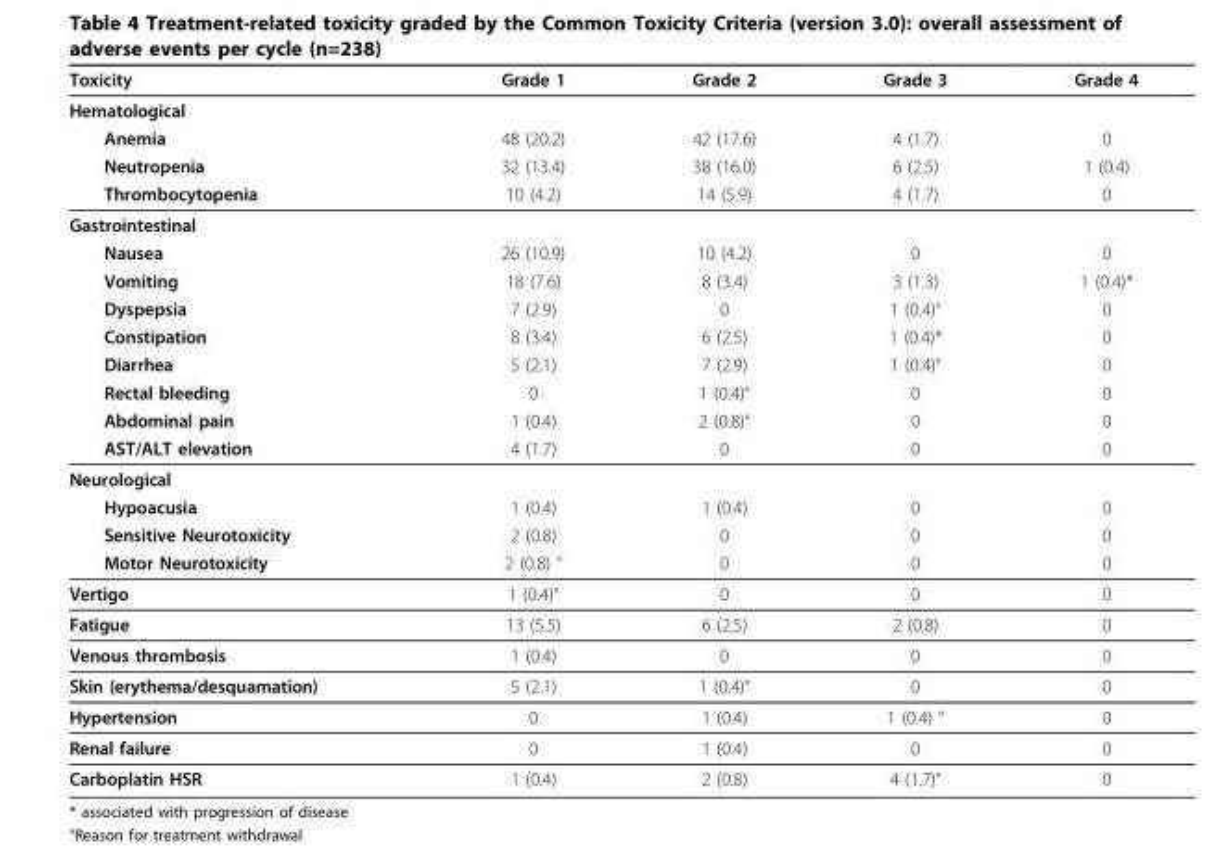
<table><thead><tr><td>Toxicity</td><td>Grade 1</td><td>Grade 2</td><td>Grade 3</td><td>Grade 4</td></tr></thead><tbody><tr><td colspan="5">Hematological</td></tr><tr><td>Anemia</td><td>48 (20.2)</td><td>42 (17.6)</td><td>4 (1.7)</td><td>0</td></tr><tr><td>Neutropenia</td><td>32 (13.4)</td><td>38 (16.0)</td><td>6 (2.5)</td><td>1 (0.4)</td></tr><tr><td>Thrombocytopenia</td><td>10 (4.2)</td><td>14 (5.9)</td><td>4 (1.7)</td><td>0</td></tr><tr><td colspan="5">Gastrointestinal</td></tr><tr><td>Nausea</td><td>26 (10.9)</td><td>10 (4.2)</td><td>0</td><td>0</td></tr><tr><td>Vomiting</td><td>18 (7.6)</td><td>8 (3.4)</td><td>3 (1.3)</td><td>1 (0.4)*</td></tr><tr><td>Dyspepsia</td><td>7 (2.9)</td><td>0</td><td>1 (0.4)°</td><td>0</td></tr><tr><td>Constipation</td><td>8 (3.4)</td><td>6 (2.5)</td><td>1 (0.4)*</td><td>0</td></tr><tr><td>Diarrhea</td><td>5 (2.1)</td><td>7 (2.9)</td><td>1 (0.4)°</td><td>0</td></tr><tr><td>Rectal bleeding</td><td>0</td><td>1 (0.4)°</td><td>0</td><td>0</td></tr><tr><td>Abdominal pain</td><td>1 (0.4)</td><td>2 (0.8)°</td><td>0</td><td>0</td></tr><tr><td>AST/ALT elevation</td><td>4 (1.7)</td><td>0</td><td>0</td><td>0</td></tr><tr><td colspan="5">Neurological</td></tr><tr><td>Hypoacusia</td><td>1 (0.4)</td><td>1 (0.4)</td><td>0</td><td>0</td></tr><tr><td>Sensitive Neurotoxicity</td><td>2 (0.8)</td><td>0</td><td>0</td><td>0</td></tr><tr><td>Motor Neurotoxicity</td><td>2 (0.8) °</td><td>0</td><td>0</td><td>0</td></tr><tr><td>Vertigo</td><td>1 (0.4)°</td><td>0</td><td>0</td><td>0</td></tr><tr><td>Fatigue</td><td>13 (5.5)</td><td>6 (2.5)</td><td>2 (0.8)</td><td>0</td></tr><tr><td>Venous thrombosis</td><td>1 (0.4)</td><td>0</td><td>0</td><td>0</td></tr><tr><td>Skin (erythema/desquamation)</td><td>5 (2.1)</td><td>1 (0.4)°</td><td>0</td><td>0</td></tr><tr><td>Hypertension</td><td>0</td><td>1 (0.4)</td><td>1 (0.4) °</td><td>0</td></tr><tr><td>Renal failure</td><td>0</td><td>1 (0.4)</td><td>0</td><td>0</td></tr><tr><td>Carboplatin HSR</td><td>1 (0.4)</td><td>2 (0.8)</td><td>4 (1.7)°</td><td>0</td></tr></tbody></table>